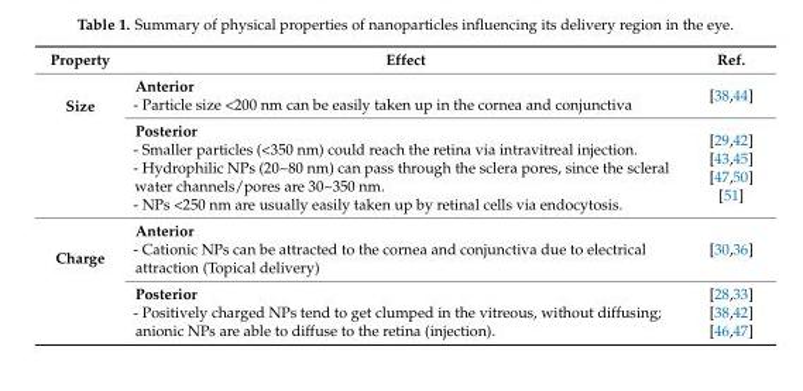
<table><thead><tr><td>Property</td><td>Effect</td><td>Ref.</td></tr></thead><tbody><tr><td rowspan="2">Size</td><td>Anterior - Particle size &lt;200 nm can be easily taken up in the cornea and conjunctiva</td><td>[38,44]</td></tr><tr><td>Posterior - Smaller particles (&lt;350 nm) could reach the retina via intravitreal injection. - Hydrophilic NPs (20~80 nm) can pass through the sclera pores, since the scleral water channels/pores are 30~350 nm. - NPs &lt;250 nm are usually easily taken up by retinal cells via endocytosis.</td><td>[29,42] [43,45] [47,50] [51]</td></tr><tr><td rowspan="2">Charge</td><td>Anterior - Cationic NPs can be attracted to the cornea and conjunctiva due to electrical attraction (Topical delivery)</td><td>[30,36]</td></tr><tr><td>Posterior - Positively charged NPs tend to get clumped in the vitreous, without diffusing; anionic NPs are able to diffuse to the retina (injection).</td><td>[28,33] [38,42] [46,47]</td></tr></tbody></table>